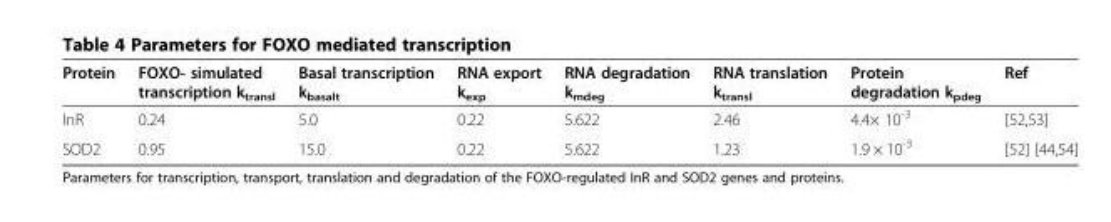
<table><thead><tr><td>Protein</td><td>FOXO- simulated transcription k<sub>transl</sub></td><td>Basal transcription k<sub>basalt</sub></td><td>RNA export k<sub>exp</sub></td><td>RNA degradation k<sub>mdeg</sub></td><td>RNA translation k<sub>transl</sub></td><td>Protein degradation k<sub>pdeg</sub></td><td>Ref</td></tr></thead><tbody><tr><td>InR</td><td>0.24</td><td>5.0</td><td>0.22</td><td>5.622</td><td>2.46</td><td>4.4× 10<sup>-3</sup></td><td>[52,53]</td></tr><tr><td>SOD2</td><td>0.95</td><td>15.0</td><td>0.22</td><td>5.622</td><td>1.23</td><td>1.9 × 10<sup>-3</sup></td><td>[52]</td></tr></tbody></table>